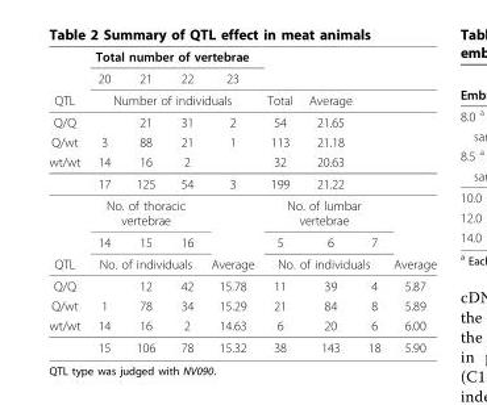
<table><thead><tr><td rowspan="3">QTL</td><td colspan="4">Total number of vertebrae</td><td rowspan="3">Total</td><td rowspan="3">Average</td><td rowspan="3"></td><td rowspan="3"></td></tr><tr><td>20</td><td>21</td><td>22</td><td>23</td></tr><tr><td colspan="4">Number of individuals</td></tr></thead><tbody><tr><td>Q/Q</td><td></td><td>21</td><td>31</td><td>2</td><td>54</td><td>21.65</td><td></td><td></td></tr><tr><td>Q/wt</td><td>3</td><td>88</td><td>21</td><td>1</td><td>113</td><td>21.18</td><td></td><td></td></tr><tr><td rowspan="4">wt/wt</td><td>14</td><td>16</td><td>2</td><td></td><td>32</td><td>20.63</td><td></td><td></td></tr><tr><td>17</td><td>125</td><td>54</td><td>3</td><td>199</td><td>21.22</td><td></td><td></td></tr><tr><td colspan="3">No. of thoracic vertebrae</td><td></td><td colspan="3">No. of lumbar vertebrae</td><td></td></tr><tr><td>14</td><td>15</td><td>16</td><td></td><td>5</td><td>6</td><td>7</td><td></td></tr><tr><td>QTL</td><td colspan="3">No. of individuals</td><td>Average</td><td colspan="3">No. of individuals</td><td>Average</td></tr><tr><td>Q/Q</td><td></td><td>12</td><td>42</td><td>15.78</td><td>11</td><td>39</td><td>4</td><td>5.87</td></tr><tr><td>Q/wt</td><td>1</td><td>78</td><td>34</td><td>15.29</td><td>21</td><td>84</td><td>8</td><td>5.89</td></tr><tr><td rowspan="2">wt/wt</td><td>14</td><td>16</td><td>2</td><td>14.63</td><td>6</td><td>20</td><td>6</td><td>6.00</td></tr><tr><td>15</td><td>106</td><td>78</td><td>15.32</td><td>38</td><td>143</td><td>18</td><td>5.90</td></tr></tbody></table>